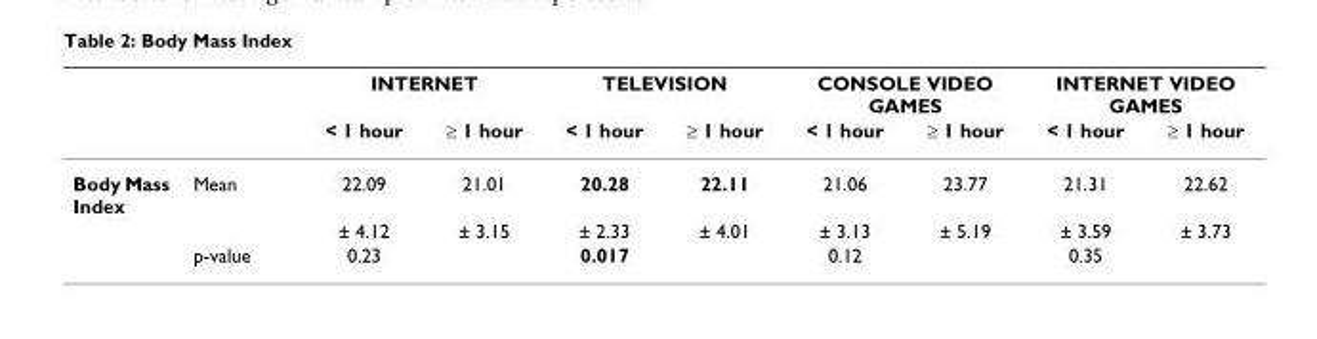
<table><thead><tr><td rowspan="2"></td><td rowspan="2"></td><td colspan="2">INTERNET</td><td colspan="2">TELEVISION</td><td colspan="2">CONSOLE VIDEO GAMES</td><td colspan="2">INTERNET VIDEO GAMES</td></tr><tr><td>&lt; 1 hour</td><td>≥ 1 hour</td><td>&lt; 1 hour</td><td>≥ 1 hour</td><td>&lt; 1 hour</td><td>≥ 1 hour</td><td>&lt; 1 hour</td><td>≥ 1 hour</td></tr></thead><tbody><tr><td rowspan="3">Body Mass Index</td><td>Mean</td><td>22.09</td><td>21.01</td><td>20.28</td><td>22.11</td><td>21.06</td><td>23.77</td><td>21.31</td><td>22.62</td></tr><tr><td></td><td>± 4.12</td><td>± 3.15</td><td>± 2.33</td><td>± 4.01</td><td>± 3.13</td><td>± 5.19</td><td>± 3.59</td><td>± 3.73</td></tr><tr><td>p-value</td><td>0.23</td><td></td><td>0.017</td><td></td><td>0.12</td><td></td><td>0.35</td><td></td></tr></tbody></table>